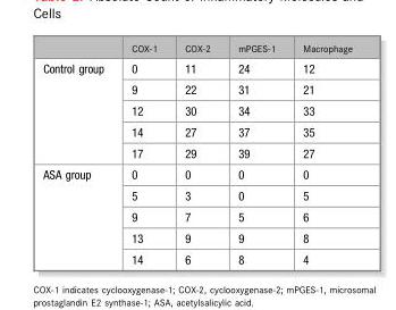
<table><thead><tr><td></td><td>COX-1</td><td>COX-2</td><td>mPGES-1</td><td>Macrophage</td></tr></thead><tbody><tr><td rowspan="5">Control group</td><td>0</td><td>11</td><td>24</td><td>12</td></tr><tr><td>9</td><td>22</td><td>31</td><td>21</td></tr><tr><td>12</td><td>30</td><td>34</td><td>33</td></tr><tr><td>14</td><td>27</td><td>37</td><td>35</td></tr><tr><td>17</td><td>29</td><td>39</td><td>27</td></tr><tr><td rowspan="5">ASA group</td><td>0</td><td>0</td><td>0</td><td>0</td></tr><tr><td>5</td><td>3</td><td>0</td><td>5</td></tr><tr><td>9</td><td>7</td><td>5</td><td>6</td></tr><tr><td>13</td><td>9</td><td>9</td><td>8</td></tr><tr><td>14</td><td>6</td><td>8</td><td>4</td></tr></tbody></table>